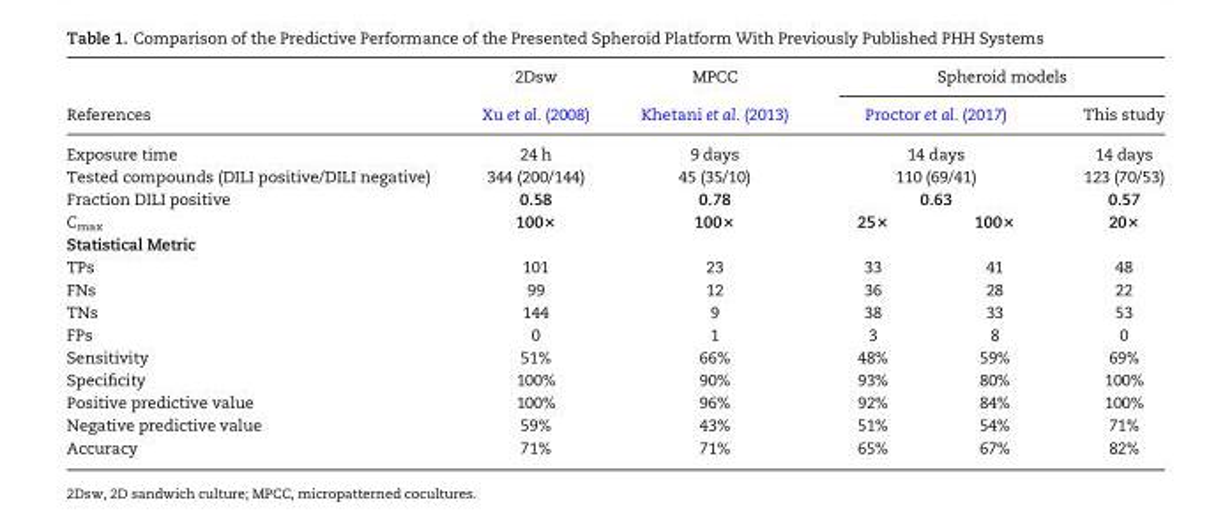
<table><thead><tr><td rowspan="2">References</td><td rowspan="2">2Dsw Xu et al. (2008)</td><td rowspan="2">MPCC Khetani et al. (2013)</td><td colspan="3">Spheroid models</td></tr><tr><td colspan="2">Proctor et al. (2017)</td><td>This study</td></tr></thead><tbody><tr><td>Exposure time</td><td>24 h</td><td>9 days</td><td colspan="2">14 days</td><td>14 days</td></tr><tr><td>Tested compounds (DILI positive/DILI negative)</td><td>344 (200/144)</td><td>45 (35/10)</td><td colspan="2">110 (69/41)</td><td>123 (70/53)</td></tr><tr><td>Fraction DILI positive</td><td>0.58</td><td>0.78</td><td colspan="2">0.63</td><td>0.57</td></tr><tr><td>C<sub>max</sub></td><td>100×</td><td>100×</td><td>25×</td><td>100×</td><td>20×</td></tr><tr><td colspan="6">Statistical Metric</td></tr><tr><td>TPs</td><td>101</td><td>23</td><td>33</td><td>41</td><td>48</td></tr><tr><td>FNs</td><td>99</td><td>12</td><td>36</td><td>28</td><td>22</td></tr><tr><td>TNs</td><td>144</td><td>9</td><td>38</td><td>33</td><td>53</td></tr><tr><td>FPs</td><td>0</td><td>1</td><td>3</td><td>8</td><td>0</td></tr><tr><td>Sensitivity</td><td>51%</td><td>66%</td><td>48%</td><td>59%</td><td>69%</td></tr><tr><td>Specificity</td><td>100%</td><td>90%</td><td>93%</td><td>80%</td><td>100%</td></tr><tr><td>Positive predictive value</td><td>100%</td><td>96%</td><td>92%</td><td>84%</td><td>100%</td></tr><tr><td>Negative predictive value</td><td>59%</td><td>43%</td><td>51%</td><td>54%</td><td>71%</td></tr><tr><td>Accuracy</td><td>71%</td><td>71%</td><td>65%</td><td>67%</td><td>82%</td></tr></tbody></table>